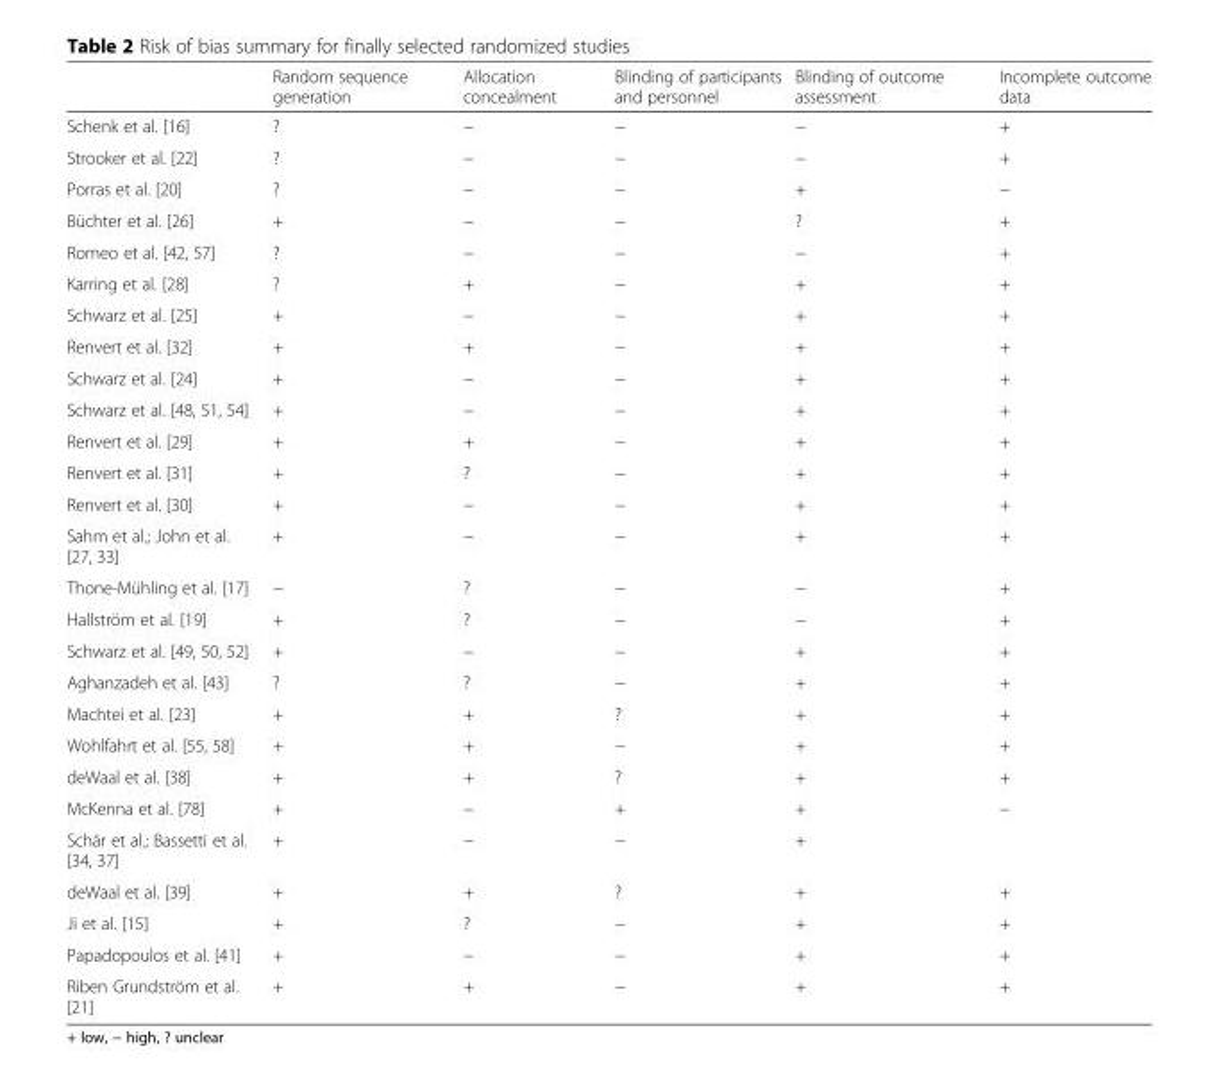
<table><thead><tr><td></td><td>Random sequence generation</td><td>Allocation concealment</td><td>Blinding of participants and personnel</td><td>Blinding of outcome assessment</td><td>Incomplete outcome data</td></tr></thead><tbody><tr><td>Schenk et al. [16]</td><td>?</td><td>−</td><td>−</td><td>−</td><td>+</td></tr><tr><td>Strooker et al. [22]</td><td>?</td><td>−</td><td>−</td><td>−</td><td>+</td></tr><tr><td>Porras et al. [20]</td><td>?</td><td>−</td><td>−</td><td>+</td><td>−</td></tr><tr><td>Büchter et al. [26]</td><td>+</td><td>−</td><td>−</td><td>?</td><td>+</td></tr><tr><td>Romeo et al. [42, 57]</td><td>?</td><td>−</td><td>−</td><td>−</td><td>+</td></tr><tr><td>Karring et al. [28]</td><td>?</td><td>+</td><td>−</td><td>+</td><td>+</td></tr><tr><td>Schwarz et al. [25]</td><td>+</td><td>−</td><td>−</td><td>+</td><td>+</td></tr><tr><td>Renvert et al. [32]</td><td>+</td><td>+</td><td>−</td><td>+</td><td>+</td></tr><tr><td>Schwarz et al. [24]</td><td>+</td><td>−</td><td>−</td><td>+</td><td>+</td></tr><tr><td>Schwarz et al. [48, 51, 54]</td><td>+</td><td>−</td><td>−</td><td>+</td><td>+</td></tr><tr><td>Renvert et al. [29]</td><td>+</td><td>+</td><td>−</td><td>+</td><td>+</td></tr><tr><td>Renvert et al. [31]</td><td>+</td><td>?</td><td>−</td><td>+</td><td>+</td></tr><tr><td>Renvert et al. [30]</td><td>+</td><td>−</td><td>−</td><td>+</td><td>+</td></tr><tr><td>Sahm et al.; John et al. [27, 33]</td><td>+</td><td>−</td><td>−</td><td>+</td><td>+</td></tr><tr><td>Thone-Mühling et al. [17]</td><td>−</td><td>?</td><td>−</td><td>−</td><td>+</td></tr><tr><td>Hallström et al. [19]</td><td>+</td><td>?</td><td>−</td><td>−</td><td>+</td></tr><tr><td>Schwarz et al. [49, 50, 52]</td><td>+</td><td>−</td><td>−</td><td>+</td><td>+</td></tr><tr><td>Aghanzadeh et al. [43]</td><td>?</td><td>?</td><td>−</td><td>+</td><td>+</td></tr><tr><td>Machtei et al. [23]</td><td>+</td><td>+</td><td>?</td><td>+</td><td>+</td></tr><tr><td>Wohlfahrt et al. [55, 58]</td><td>+</td><td>+</td><td>−</td><td>+</td><td>+</td></tr><tr><td>deWaal et al. [38]</td><td>+</td><td>+</td><td>?</td><td>+</td><td>+</td></tr><tr><td>McKenna et al. [78]</td><td>+</td><td>−</td><td>+</td><td>+</td><td>−</td></tr><tr><td>Schär et al.; Bassetti et al. [34, 37]</td><td>+</td><td>−</td><td>−</td><td>+</td><td></td></tr><tr><td>deWaal et al. [39]</td><td>+</td><td>+</td><td>?</td><td>+</td><td>+</td></tr><tr><td>Ji et al. [15]</td><td>+</td><td>?</td><td>−</td><td>+</td><td>+</td></tr><tr><td>Papadopoulos et al. [41]</td><td>+</td><td>−</td><td>−</td><td>+</td><td>+</td></tr><tr><td>Riben Grundström et al. [21]</td><td>+</td><td>+</td><td>−</td><td>+</td><td>+</td></tr></tbody></table>